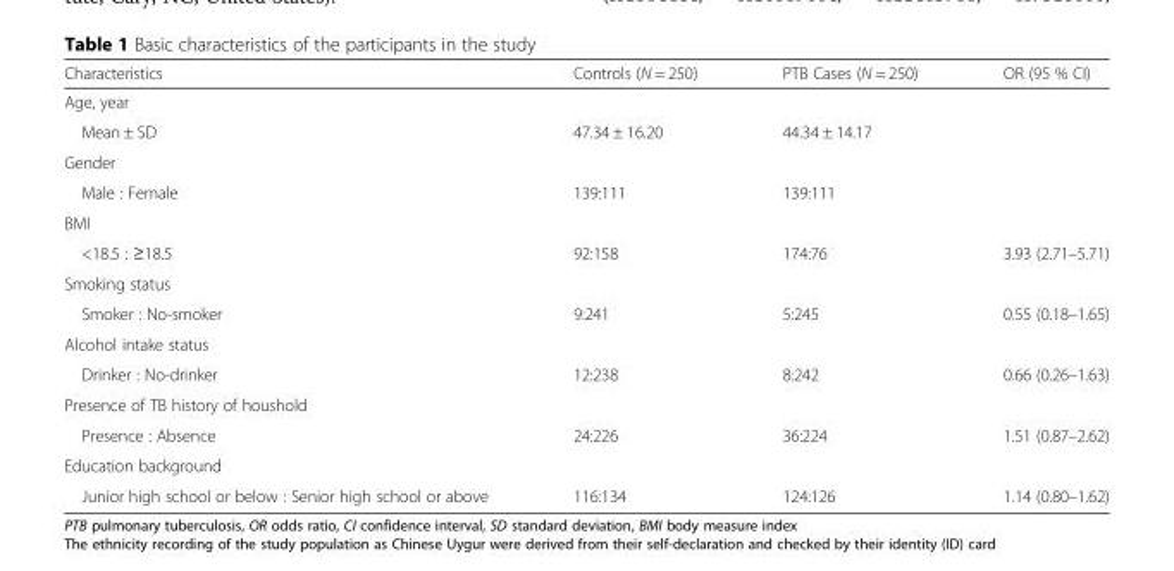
<table><thead><tr><td>Characteristics</td><td>Controls (N = 250)</td><td>PTB Cases (N = 250)</td><td>OR (95 % CI)</td></tr></thead><tbody><tr><td colspan="4">Age, year</td></tr><tr><td>Mean ± SD</td><td>47.34 ± 16.20</td><td>44.34 ± 14.17</td><td></td></tr><tr><td colspan="4">Gender</td></tr><tr><td>Male : Female</td><td>139:111</td><td>139:111</td><td></td></tr><tr><td colspan="4">BMI</td></tr><tr><td>&lt;18.5 : ≥18.5</td><td>92:158</td><td>174:76</td><td>3.93 (2.71–5.71)</td></tr><tr><td colspan="4">Smoking status</td></tr><tr><td>Smoker : No-smoker</td><td>9:241</td><td>5:245</td><td>0.55 (0.18–1.65)</td></tr><tr><td colspan="4">Alcohol intake status</td></tr><tr><td>Drinker : No-drinker</td><td>12:238</td><td>8:242</td><td>0.66 (0.26–1.63)</td></tr><tr><td colspan="4">Presence of TB history of houshold</td></tr><tr><td>Presence : Absence</td><td>24:226</td><td>36:224</td><td>1.51 (0.87–2.62)</td></tr><tr><td colspan="4">Education background</td></tr><tr><td>Junior high school or below : Senior high school or above</td><td>116:134</td><td>124:126</td><td>1.14 (0.80–1.62)</td></tr></tbody></table>